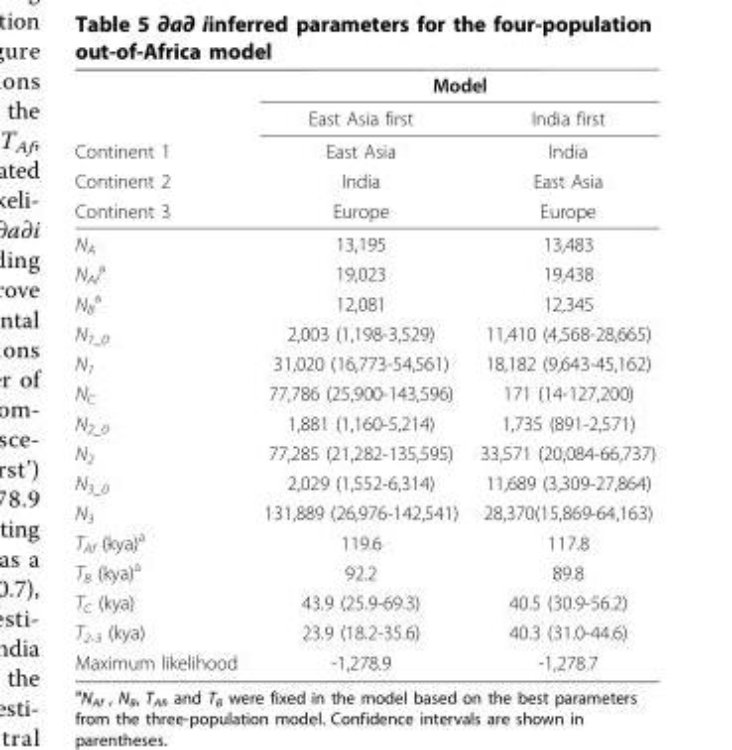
<table><thead><tr><td rowspan="5">Continent 1 Continent 2 Continent 3</td><td colspan="2">Model</td></tr><tr><td rowspan="4">East Asia first East Asia India Europe</td><td rowspan="4">India first India East Asia Europe</td></tr><tr></tr><tr></tr><tr></tr></thead><tbody><tr><td>N<sub>A</sub></td><td>13,195</td><td>13,483</td></tr><tr><td>N<sub>Af</sub> <sup>a</sup></td><td>19,023</td><td>19,438</td></tr><tr><td>N<sub>B</sub> <sup>a</sup></td><td>12,081</td><td>12,345</td></tr><tr><td>N<sub>1_0</sub></td><td>2,003 (1,198-3,529)</td><td>11,410 (4,568-28,665)</td></tr><tr><td>N<sub>1</sub></td><td>31,020 (16,773-54,561)</td><td>18,182 (9,643-45,162)</td></tr><tr><td>N<sub>C</sub></td><td>77,786 (25,900-143,596)</td><td>171 (14-127,200)</td></tr><tr><td>N<sub>2_0</sub></td><td>1,881 (1,160-5,214)</td><td>1,735 (891-2,571)</td></tr><tr><td>N<sub>2</sub></td><td>77,285 (21,282-135,595)</td><td>33,571 (20,084-66,737)</td></tr><tr><td>N<sub>3_0</sub></td><td>2,029 (1,552-6,314)</td><td>11,689 (3,309-27,864)</td></tr><tr><td>N<sub>3</sub></td><td>131,889 (26,976-142,541)</td><td>28,370(15,869-64,163)</td></tr><tr><td>T<sub>Af</sub> (kya)<sup>a</sup></td><td>119.6</td><td>117.8</td></tr><tr><td>T<sub>B</sub> (kya)<sup>a</sup></td><td>92.2</td><td>89.8</td></tr><tr><td>T<sub>C</sub> (kya)</td><td>43.9 (25.9-69.3)</td><td>40.5 (30.9-56.2)</td></tr><tr><td>T<sub>2-3</sub> (kya)</td><td>23.9 (18.2-35.6)</td><td>40.3 (31.0-44.6)</td></tr><tr><td>Maximum likelihood</td><td>-1,278.9</td><td>-1,278.7</td></tr></tbody></table>